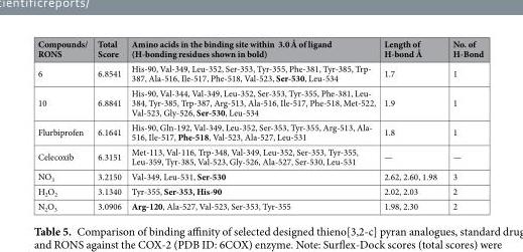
<table><thead><tr><td>Compounds/ RONS</td><td>Total Score</td><td>Amino acids in the binding site within 3.0 Å of ligand (H-bonding residues shown in bold)</td><td>Length of H-bond Å</td><td>No. of H-Bond</td></tr></thead><tbody><tr><td>6</td><td>6.8541</td><td>His-90, Val-349, Leu-352, Ser-353, Tyr-355, Phe-381, Tyr-385, Trp- 387, Ala-516, Ile-517, Phe-518, Val-523, Ser-530, Leu-534</td><td>1.7</td><td>1</td></tr><tr><td>10</td><td>6.8841</td><td>His-90, Val-344, Val-349, Leu-352, Ser-353, Tyr-355, Phe-381, Leu- 384, Tyr-385, Trp-387, Arg-513, Ala-516, Ile-517, Phe-518, Met-522, Val-523, Gly-526, Ser-530, Leu-534</td><td>1.9</td><td>1</td></tr><tr><td>Flurbiprofen</td><td>6.1641</td><td>His-90, Gln-192, Val-349, Leu-352, Ser-353, Tyr-355, Arg-513, Ala- 516, Ile-517, Phe-518, Val-523, Ala-527, Leu-531</td><td>1.8</td><td>1</td></tr><tr><td>Celecoxib</td><td>6.3151</td><td>Met-113, Val-116, Trp-348, Val-349, Leu-352, Ser-353, Tyr-355, Leu-359, Tyr-385, Val-523, Gly-526, Ala-527, Ser-530, Leu-531</td><td>—</td><td>—</td></tr><tr><td>NO<sub>3</sub></td><td>3.2150</td><td>Val-349, Leu-531, Ser-530</td><td>2.62, 2.60, 1.98</td><td>3</td></tr><tr><td>H<sub>2</sub>O<sub>2</sub></td><td>3.1340</td><td>Tyr-355, Ser-353, His-90</td><td>2.02, 2.03</td><td>2</td></tr><tr><td>N<sub>2</sub>O<sub>3</sub></td><td>3.0906</td><td>Arg-120, Ala-527, Val-523, Ser-353, Tyr-355</td><td>1.98, 2.30</td><td>2</td></tr></tbody></table>